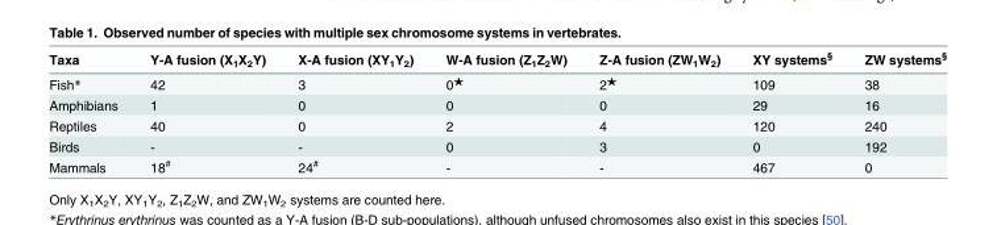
<table><thead><tr><td>Taxa</td><td>Y-A fusion (X<sub>1</sub>X<sub>2</sub>Y)</td><td>X-A fusion (XY<sub>1</sub>Y<sub>2</sub>)</td><td>W-A fusion (Z<sub>1</sub>Z<sub>2</sub>W)</td><td>Z-A fusion (ZW<sub>1</sub>W<sub>2</sub>)</td><td>XY systems<sup>§</sup></td><td>ZW systems<sup>§</sup></td></tr></thead><tbody><tr><td>Fish*</td><td>42</td><td>3</td><td>0<sup>★</sup></td><td>2<sup>★</sup></td><td>109</td><td>38</td></tr><tr><td>Amphibians</td><td>1</td><td>0</td><td>0</td><td>0</td><td>29</td><td>16</td></tr><tr><td>Reptiles</td><td>40</td><td>0</td><td>2</td><td>4</td><td>120</td><td>240</td></tr><tr><td>Birds</td><td>-</td><td>-</td><td>0</td><td>3</td><td>0</td><td>192</td></tr><tr><td>Mammals</td><td>18<sup>#</sup></td><td>24<sup>#</sup></td><td>-</td><td>-</td><td>467</td><td>0</td></tr></tbody></table>